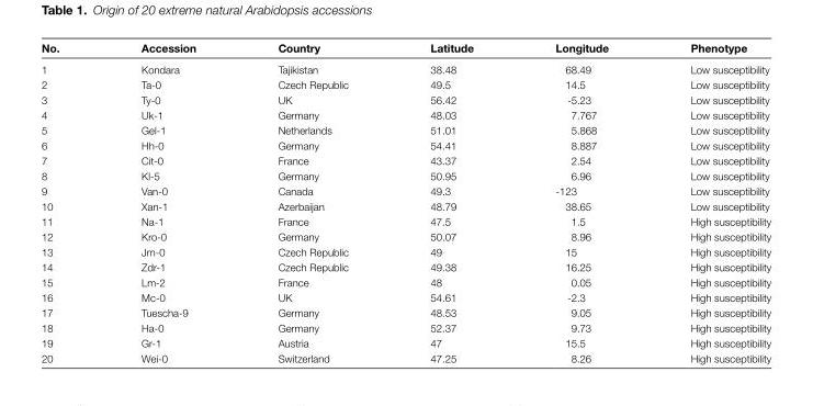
<table><thead><tr><td>No.</td><td>Accession</td><td>Country</td><td>Latitude</td><td>Longitude</td><td>Phenotype</td></tr></thead><tbody><tr><td>1</td><td>Kondara</td><td>Tajikistan</td><td>38.48</td><td>68.49</td><td>Low susceptibility</td></tr><tr><td>2</td><td>Ta-0</td><td>Czech Republic</td><td>49.5</td><td>14.5</td><td>Low susceptibility</td></tr><tr><td>3</td><td>Ty-0</td><td>UK</td><td>56.42</td><td>-5.23</td><td>Low susceptibility</td></tr><tr><td>4</td><td>Uk-1</td><td>Germany</td><td>48.03</td><td>7.767</td><td>Low susceptibility</td></tr><tr><td>5</td><td>Gel-1</td><td>Netherlands</td><td>51.01</td><td>5.868</td><td>Low susceptibility</td></tr><tr><td>6</td><td>Hh-0</td><td>Germany</td><td>54.41</td><td>8.887</td><td>Low susceptibility</td></tr><tr><td>7</td><td>Cit-0</td><td>France</td><td>43.37</td><td>2.54</td><td>Low susceptibility</td></tr><tr><td>8</td><td>Kl-5</td><td>Germany</td><td>50.95</td><td>6.96</td><td>Low susceptibility</td></tr><tr><td>9</td><td>Van-0</td><td>Canada</td><td>49.3</td><td>-123</td><td>Low susceptibility</td></tr><tr><td>10</td><td>Xan-1</td><td>Azerbaijan</td><td>48.79</td><td>38.65</td><td>Low susceptibility</td></tr><tr><td>11</td><td>Na-1</td><td>France</td><td>47.5</td><td>1.5</td><td>High susceptibility</td></tr><tr><td>12</td><td>Kro-0</td><td>Germany</td><td>50.07</td><td>8.96</td><td>High susceptibility</td></tr><tr><td>13</td><td>Jm-0</td><td>Czech Republic</td><td>49</td><td>15</td><td>High susceptibility</td></tr><tr><td>14</td><td>Zdr-1</td><td>Czech Republic</td><td>49.38</td><td>16.25</td><td>High susceptibility</td></tr><tr><td>15</td><td>Lm-2</td><td>France</td><td>48</td><td>0.05</td><td>High susceptibility</td></tr><tr><td>16</td><td>Mc-0</td><td>UK</td><td>54.61</td><td>-2.3</td><td>High susceptibility</td></tr><tr><td>17</td><td>Tuescha-9</td><td>Germany</td><td>48.53</td><td>9.05</td><td>High susceptibility</td></tr><tr><td>18</td><td>Ha-0</td><td>Germany</td><td>52.37</td><td>9.73</td><td>High susceptibility</td></tr><tr><td>19</td><td>Gr-1</td><td>Austria</td><td>47</td><td>15.5</td><td>High susceptibility</td></tr><tr><td>20</td><td>Wei-0</td><td>Switzerland</td><td>47.25</td><td>8.26</td><td>High susceptibility</td></tr></tbody></table>